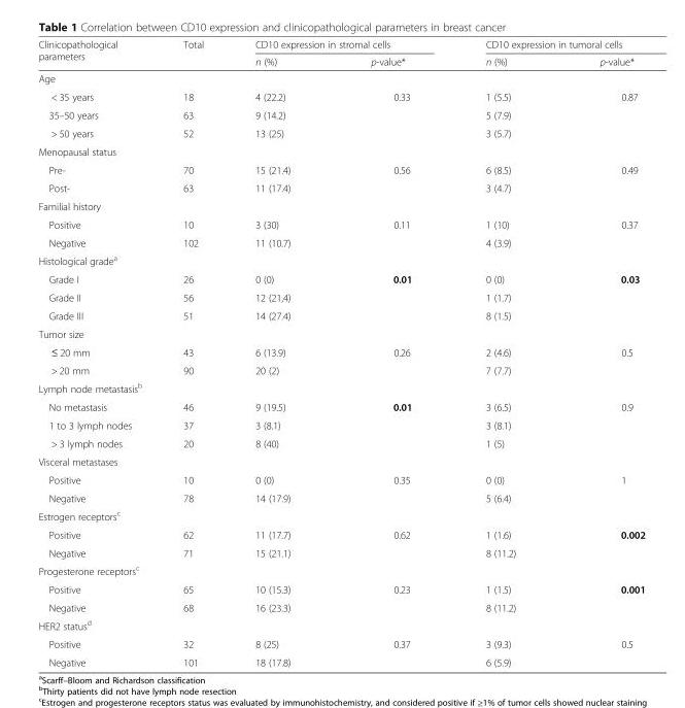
<table><thead><tr><td rowspan="2">Clinicopathological parameters</td><td rowspan="2">Total</td><td colspan="2">CD10 expression in stromal cells</td><td colspan="2">CD10 expression in tumoral cells</td></tr><tr><td>n (%)</td><td>p-value*</td><td>n (%)</td><td>p-value*</td></tr></thead><tbody><tr><td colspan="6">Age</td></tr><tr><td>&lt; 35 years</td><td>18</td><td>4 (22.2)</td><td>0.33</td><td>1 (5.5)</td><td>0.87</td></tr><tr><td>35–50 years</td><td>63</td><td>9 (14.2)</td><td></td><td>5 (7.9)</td><td></td></tr><tr><td>&gt; 50 years</td><td>52</td><td>13 (25)</td><td></td><td>3 (5.7)</td><td></td></tr><tr><td colspan="6">Menopausal status</td></tr><tr><td>Pre-</td><td>70</td><td>15 (21.4)</td><td>0.56</td><td>6 (8.5)</td><td>0.49</td></tr><tr><td>Post-</td><td>63</td><td>11 (17.4)</td><td></td><td>3 (4.7)</td><td></td></tr><tr><td colspan="6">Familial history</td></tr><tr><td>Positive</td><td>10</td><td>3 (30)</td><td>0.11</td><td>1 (10)</td><td>0.37</td></tr><tr><td>Negative</td><td>102</td><td>11 (10.7)</td><td></td><td>4 (3.9)</td><td></td></tr><tr><td colspan="6">Histological grade<sup>a</sup></td></tr><tr><td>Grade I</td><td>26</td><td>0 (0)</td><td>0.01</td><td>0 (0)</td><td>0.03</td></tr><tr><td>Grade II</td><td>56</td><td>12 (21,4)</td><td></td><td>1 (1.7)</td><td></td></tr><tr><td>Grade III</td><td>51</td><td>14 (27.4)</td><td></td><td>8 (1.5)</td><td></td></tr><tr><td colspan="6">Tumor size</td></tr><tr><td>≤ 20 mm</td><td>43</td><td>6 (13.9)</td><td>0.26</td><td>2 (4.6)</td><td>0.5</td></tr><tr><td>&gt; 20 mm</td><td>90</td><td>20 (2)</td><td></td><td>7 (7.7)</td><td></td></tr><tr><td colspan="6">Lymph node metastasis<sup>b</sup></td></tr><tr><td>No metastasis</td><td>46</td><td>9 (19.5)</td><td>0.01</td><td>3 (6.5)</td><td>0.9</td></tr><tr><td>1 to 3 lymph nodes</td><td>37</td><td>3 (8.1)</td><td></td><td>3 (8.1)</td><td></td></tr><tr><td>&gt; 3 lymph nodes</td><td>20</td><td>8 (40)</td><td></td><td>1 (5)</td><td></td></tr><tr><td colspan="6">Visceral metastases</td></tr><tr><td>Positive</td><td>10</td><td>0 (0)</td><td>0.35</td><td>0 (0)</td><td>1</td></tr><tr><td>Negative</td><td>78</td><td>14 (17.9)</td><td></td><td>5 (6.4)</td><td></td></tr><tr><td colspan="6">Estrogen receptors<sup>c</sup></td></tr><tr><td>Positive</td><td>62</td><td>11 (17.7)</td><td>0.62</td><td>1 (1.6)</td><td>0.002</td></tr><tr><td>Negative</td><td>71</td><td>15 (21.1)</td><td></td><td>8 (11.2)</td><td></td></tr><tr><td colspan="6">Progesterone receptors<sup>c</sup></td></tr><tr><td>Positive</td><td>65</td><td>10 (15.3)</td><td>0.23</td><td>1 (1.5)</td><td>0.001</td></tr><tr><td>Negative</td><td>68</td><td>16 (23.3)</td><td></td><td>8 (11.2)</td><td></td></tr><tr><td colspan="6">HER2 status<sup>d</sup></td></tr><tr><td>Positive</td><td>32</td><td>8 (25)</td><td>0.37</td><td>3 (9.3)</td><td>0.5</td></tr><tr><td>Negative</td><td>101</td><td>18 (17.8)</td><td></td><td>6 (5.9)</td><td></td></tr></tbody></table>